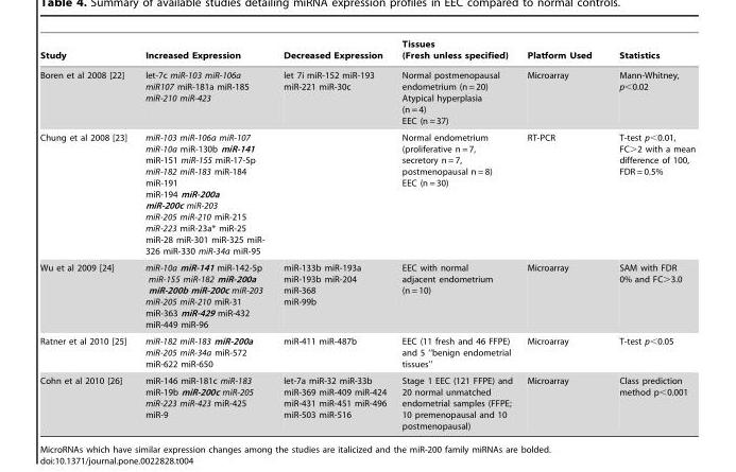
<table><thead><tr><td>Study</td><td>Increased Expression</td><td>Decreased Expression</td><td>Tissues (Fresh unless specified)</td><td>Platform Used</td><td>Statistics</td></tr></thead><tbody><tr><td>Boren et al 2008 [22]</td><td>let-7c miR-103 miR-106a miR107 miR-181a miR-185 miR-210 miR-423</td><td>let 7i miR-152 miR-193 miR-221 miR-30c</td><td>Normal postmenopausal endometrium (n = 20) Atypical hyperplasia (n = 4) EEC (n = 37)</td><td>Microarray</td><td>Mann-Whitney, p&lt;0.02</td></tr><tr><td>Chung et al 2008 [23]</td><td>miR-103 miR-106a miR-107 miR-10a miR-130b miR-141 miR-151 miR-155 miR-17-5p miR-182 miR-183 miR-184 miR-191 miR-194 miR-200a miR-200c miR-203 miR-205 miR-210 miR-215 miR-223 miR-23a* miR-25 miR-28 miR-301 miR-325 miR- 326 miR-330 miR-34a miR-95</td><td></td><td>Normal endometrium (proliferative n = 7, secretory n = 7, postmenopausal n = 8) EEC (n = 30)</td><td>RT-PCR</td><td>T-test p&lt;0.01, FC&gt;2 with a mean difference of 100, FDR = 0.5%</td></tr><tr><td>Wu et al 2009 [24]</td><td>miR-10a miR-141 miR-142-5p miR-155 miR-182 miR-200a miR-200b miR-200c miR-203 miR-205 miR-210 miR-31 miR-363 miR-429 miR-432 miR-449 miR-96</td><td>miR-133b miR-193a miR-193b miR-204 miR-368 miR-99b</td><td>EEC with normal adjacent endometrium (n = 10)</td><td>Microarray</td><td>SAM with FDR 0% and FC&gt;3.0</td></tr><tr><td>Ratner et al 2010 [25]</td><td>miR-182 miR-183 miR-200a miR-205 miR-34a miR-572 miR-622 miR-650</td><td>miR-411 miR-487b</td><td>EEC (11 fresh and 46 FFPE) and 5 ‘‘benign endometrial tissues’’</td><td>Microarray</td><td>T-test p&lt;0.05</td></tr><tr><td>Cohn et al 2010 [26]</td><td>miR-146 miR-181c miR-183 miR-19b miR-200c miR-205 miR-223 miR-423 miR-425 miR-9</td><td>let-7a miR-32 miR-33b miR-369 miR-409 miR-424 miR-431 miR-451 miR-496 miR-503 miR-516</td><td>Stage 1 EEC (121 FFPE) and 20 normal unmatched endometrial samples (FFPE; 10 premenopausal and 10 postmenopausal)</td><td>Microarray</td><td>Class prediction method p&lt;0.001</td></tr></tbody></table>